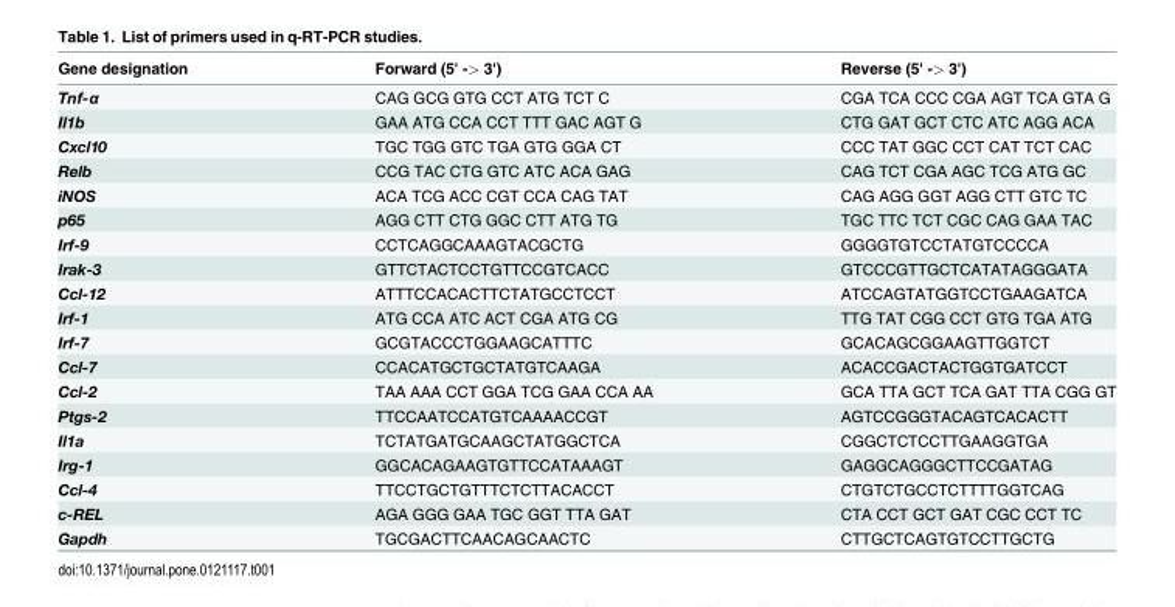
<table><thead><tr><td>Gene designation</td><td>Forward (5&#x27; -&gt; 3&#x27;)</td><td>Reverse (5&#x27; -&gt; 3&#x27;)</td></tr></thead><tbody><tr><td>Tnf-α</td><td>CAG GCG GTG CCT ATG TCT C</td><td>CGA TCA CCC CGA AGT TCA GTA G</td></tr><tr><td>Il1b</td><td>GAA ATG CCA CCT TTT GAC AGT G</td><td>CTG GAT GCT CTC ATC AGG ACA</td></tr><tr><td>Cxcl10</td><td>TGC TGG GTC TGA GTG GGA CT</td><td>CCC TAT GGC CCT CAT TCT CAC</td></tr><tr><td>Relb</td><td>CCG TAC CTG GTC ATC ACA GAG</td><td>CAG TCT CGA AGC TCG ATG GC</td></tr><tr><td>iNOS</td><td>ACA TCG ACC CGT CCA CAG TAT</td><td>CAG AGG GGT AGG CTT GTC TC</td></tr><tr><td>p65</td><td>AGG CTT CTG GGC CTT ATG TG</td><td>TGC TTC TCT CGC CAG GAA TAC</td></tr><tr><td>Irf-9</td><td>CCTCAGGCAAAGTACGCTG</td><td>GGGGTGTCCTATGTCCCCA</td></tr><tr><td>Irak-3</td><td>GTTCTACTCCTGTTCCGTCACC</td><td>GTCCCGTTGCTCATATAGGGATA</td></tr><tr><td>Ccl-12</td><td>ATTTCCACACTTCTATGCCTCCT</td><td>ATCCAGTATGGTCCTGAAGATCA</td></tr><tr><td>Irf-1</td><td>ATG CCA ATC ACT CGA ATG CG</td><td>TTG TAT CGG CCT GTG TGA ATG</td></tr><tr><td>Irf-7</td><td>GCGTACCCTGGAAGCATTTC</td><td>GCACAGCGGAAGTTGGTCT</td></tr><tr><td>Ccl-7</td><td>CCACATGCTGCTATGTCAAGA</td><td>ACACCGACTACTGGTGATCCT</td></tr><tr><td>Ccl-2</td><td>TAA AAA CCT GGA TCG GAA CCA AA</td><td>GCA TTA GCT TCA GAT TTA CGG GT</td></tr><tr><td>Ptgs-2</td><td>TTCCAATCCATGTCAAAACCGT</td><td>AGTCCGGGTACAGTCACACTT</td></tr><tr><td>Il1a</td><td>TCTATGATGCAAGCTATGGCTCA</td><td>CGGCTCTCCTTGAAGGTGA</td></tr><tr><td>Irg-1</td><td>GGCACAGAAGTGTTCCATAAAGT</td><td>GAGGCAGGGCTTCCGATAG</td></tr><tr><td>Ccl-4</td><td>TTCCTGCTGTTTCTCTTACACCT</td><td>CTGTCTGCCTCTTTTGGTCAG</td></tr><tr><td>c-REL</td><td>AGA GGG GAA TGC GGT TTA GAT</td><td>CTA CCT GCT GAT CGC CCT TC</td></tr><tr><td>Gapdh</td><td>TGCGACTTCAACAGCAACTC</td><td>CTTGCTCAGTGTCCTTGCTG</td></tr></tbody></table>